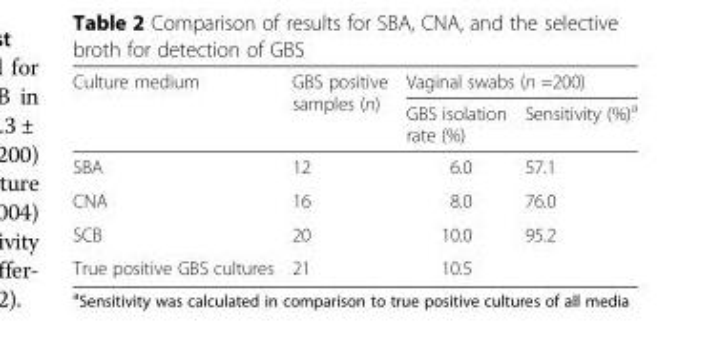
<table><thead><tr><td rowspan="2">Culture medium</td><td rowspan="2">GBS positive samples (n)</td><td colspan="2">Vaginal swabs (n =200)</td></tr><tr><td>GBS isolation rate (%)</td><td>Sensitivity (%)<sup>a</sup></td></tr></thead><tbody><tr><td>SBA</td><td>12</td><td>6.0</td><td>57.1</td></tr><tr><td>CNA</td><td>16</td><td>8.0</td><td>76.0</td></tr><tr><td>SCB</td><td>20</td><td>10.0</td><td>95.2</td></tr><tr><td>True positive GBS cultures</td><td>21</td><td>10.5</td><td></td></tr></tbody></table>